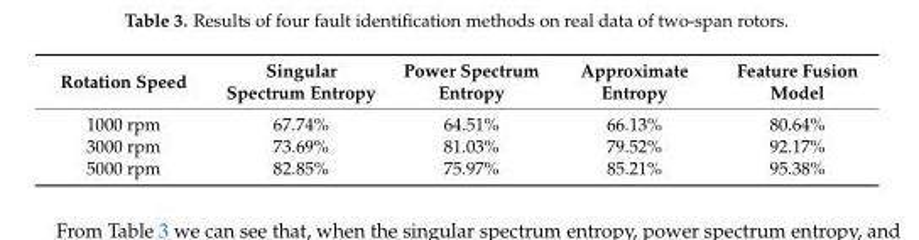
<table><thead><tr><td>Rotation Speed</td><td>Singular Spectrum Entropy</td><td>Power Spectrum Entropy</td><td>Approximate Entropy</td><td>Feature Fusion Model</td></tr></thead><tbody><tr><td>1000 rpm</td><td>67.74%</td><td>64.51%</td><td>66.13%</td><td>80.64%</td></tr><tr><td>3000 rpm</td><td>73.69%</td><td>81.03%</td><td>79.52%</td><td>92.17%</td></tr><tr><td>5000 rpm</td><td>82.85%</td><td>75.97%</td><td>85.21%</td><td>95.38%</td></tr></tbody></table>